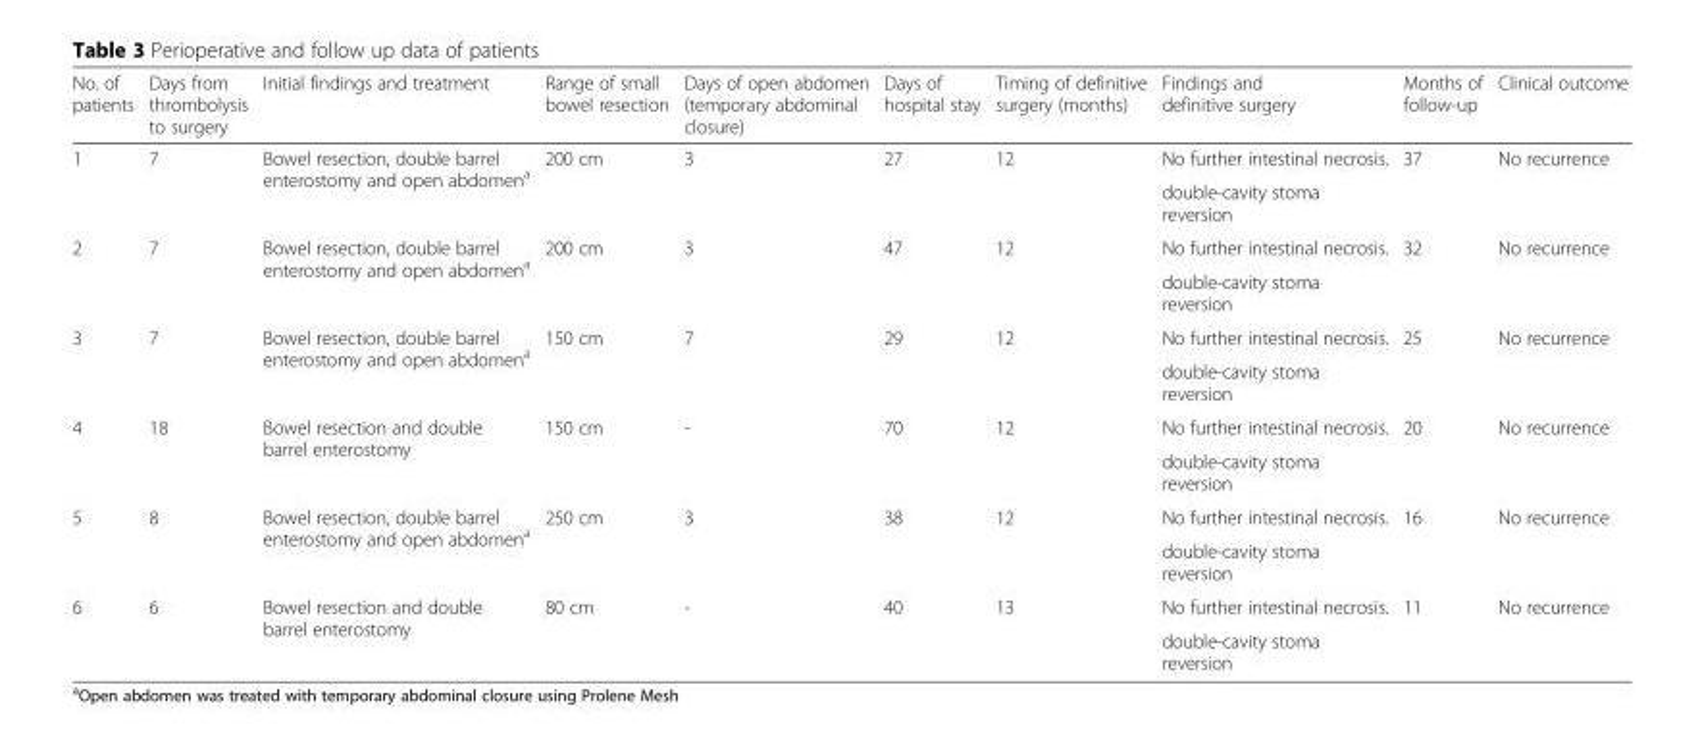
<table><thead><tr><td>No. of patients</td><td>Days from thrombolysis to surgery</td><td>Initial findings and treatment</td><td>Range of small bowel resection</td><td>Days of open abdomen (temporary abdominal closure)</td><td>Days of hospital stay</td><td>Timing of definitive surgery (months)</td><td>Findings and definitive surgery</td><td>Months of follow-up</td><td>Clinical outcome</td></tr></thead><tbody><tr><td rowspan="2">1</td><td rowspan="2">7</td><td rowspan="2">Bowel resection, double barrel enterostomy and open abdomen<sup>a</sup></td><td rowspan="2">200 cm</td><td rowspan="2">3</td><td rowspan="2">27</td><td rowspan="2">12</td><td>No further intestinal necrosis.</td><td rowspan="2">37</td><td rowspan="2">No recurrence</td></tr><tr><td>double-cavity stoma reversion</td></tr><tr><td rowspan="2">2</td><td rowspan="2">7</td><td rowspan="2">Bowel resection, double barrel enterostomy and open abdomen<sup>a</sup></td><td rowspan="2">200 cm</td><td rowspan="2">3</td><td rowspan="2">47</td><td rowspan="2">12</td><td>No further intestinal necrosis.</td><td rowspan="2">32</td><td rowspan="2">No recurrence</td></tr><tr><td>double-cavity stoma reversion</td></tr><tr><td rowspan="2">3</td><td rowspan="2">7</td><td rowspan="2">Bowel resection, double barrel enterostomy and open abdomen<sup>a</sup></td><td rowspan="2">150 cm</td><td rowspan="2">7</td><td rowspan="2">29</td><td rowspan="2">12</td><td>No further intestinal necrosis.</td><td rowspan="2">25</td><td rowspan="2">No recurrence</td></tr><tr><td>double-cavity stoma reversion</td></tr><tr><td rowspan="2">4</td><td rowspan="2">18</td><td rowspan="2">Bowel resection and double barrel enterostomy</td><td rowspan="2">150 cm</td><td rowspan="2">-</td><td rowspan="2">70</td><td rowspan="2">12</td><td>No further intestinal necrosis.</td><td rowspan="2">20</td><td rowspan="2">No recurrence</td></tr><tr><td>double-cavity stoma reversion</td></tr><tr><td rowspan="2">5</td><td rowspan="2">8</td><td rowspan="2">Bowel resection, double barrel enterostomy and open abdomen<sup>a</sup></td><td rowspan="2">250 cm</td><td rowspan="2">3</td><td rowspan="2">38</td><td rowspan="2">12</td><td>No further intestinal necrosis.</td><td rowspan="2">16</td><td rowspan="2">No recurrence</td></tr><tr><td>double-cavity stoma reversion</td></tr><tr><td rowspan="2">6</td><td rowspan="2">6</td><td rowspan="2">Bowel resection and double barrel enterostomy</td><td rowspan="2">80 cm</td><td rowspan="2">-</td><td rowspan="2">40</td><td rowspan="2">13</td><td>No further intestinal necrosis.</td><td rowspan="2">11</td><td rowspan="2">No recurrence</td></tr><tr><td>double-cavity stoma reversion</td></tr></tbody></table>